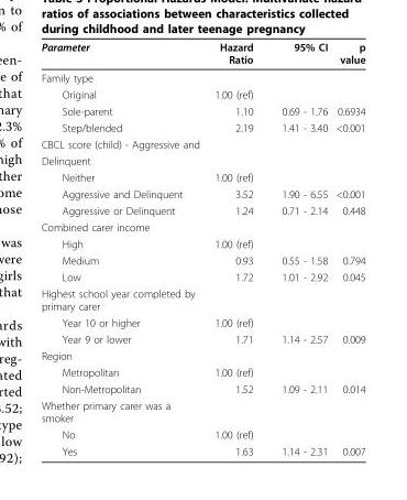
<table><thead><tr><td>Parameter</td><td>Hazard Ratio</td><td>95% CI</td><td>p value</td></tr></thead><tbody><tr><td colspan="4">Family type</td></tr><tr><td>Original</td><td>1.00 (ref)</td><td></td><td></td></tr><tr><td>Sole-parent</td><td>1.10</td><td>0.69 - 1.76</td><td>0.6934</td></tr><tr><td>Step/blended</td><td>2.19</td><td>1.41 - 3.40</td><td>&lt;0.001</td></tr><tr><td colspan="4">CBCL score (child) - Aggressive and</td></tr><tr><td colspan="4">Delinquent</td></tr><tr><td>Neither</td><td>1.00 (ref)</td><td></td><td></td></tr><tr><td>Aggressive and Delinquent</td><td>3.52</td><td>1.90 - 6.55</td><td>&lt;0.001</td></tr><tr><td>Aggressive or Delinquent</td><td>1.24</td><td>0.71 - 2.14</td><td>0.448</td></tr><tr><td colspan="4">Combined carer income</td></tr><tr><td>High</td><td>1.00 (ref)</td><td></td><td></td></tr><tr><td>Medium</td><td>0.93</td><td>0.55 - 1.58</td><td>0.794</td></tr><tr><td>Low</td><td>1.72</td><td>1.01 - 2.92</td><td>0.045</td></tr><tr><td colspan="4">Highest school year completed by primary carer</td></tr><tr><td>Year 10 or higher</td><td>1.00 (ref)</td><td></td><td></td></tr><tr><td>Year 9 or lower</td><td>1.71</td><td>1.14 - 2.57</td><td>0.009</td></tr><tr><td colspan="4">Region</td></tr><tr><td>Metropolitan</td><td>1.00 (ref)</td><td></td><td></td></tr><tr><td>Non-Metropolitan</td><td>1.52</td><td>1.09 - 2.11</td><td>0.014</td></tr><tr><td colspan="4">Whether primary carer was a smoker</td></tr><tr><td>No</td><td>1.00 (ref)</td><td></td><td></td></tr><tr><td>Yes</td><td>1.63</td><td>1.14 - 2.31</td><td>0.007</td></tr></tbody></table>